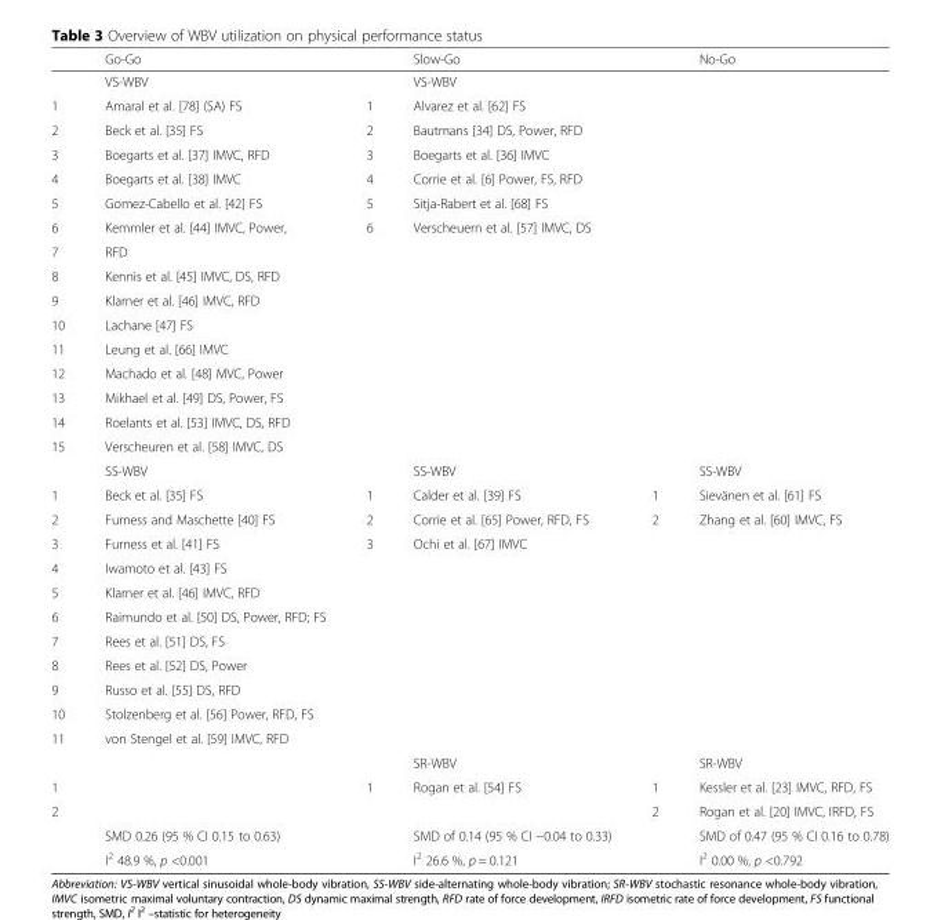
<table><thead><tr><td></td><td>Go-Go</td><td></td><td>Slow-Go</td><td></td><td>No-Go</td></tr></thead><tbody><tr><td></td><td>VS-WBV</td><td></td><td>VS-WBV</td><td></td><td></td></tr><tr><td>1</td><td>Amaral et al. [78] (SA) FS</td><td>1</td><td>Alvarez et al. [62] FS</td><td rowspan="15"></td><td rowspan="15"></td></tr><tr><td>2</td><td>Beck et al. [35] FS</td><td>2</td><td>Bautmans [34] DS, Power, RFD</td></tr><tr><td>3</td><td>Boegarts et al. [37] IMVC, RFD</td><td>3</td><td>Boegarts et al. [36] IMVC</td></tr><tr><td>4</td><td>Boegarts et al. [38] IMVC</td><td>4</td><td>Corrie et al. [6] Power, FS, RFD</td></tr><tr><td>5</td><td>Gomez-Cabello et al. [42] FS</td><td>5</td><td>Sitja-Rabert et al. [68] FS</td></tr><tr><td>6</td><td>Kemmler et al. [44] IMVC, Power,</td><td rowspan="6">6</td><td rowspan="10">Verscheuern et al. [57] IMVC, DS</td></tr><tr><td>7</td><td>RFD</td></tr><tr><td>8</td><td>Kennis et al. [45] IMVC, DS, RFD</td></tr><tr><td>9</td><td>Klarner et al. [46] IMVC, RFD</td></tr><tr><td>10</td><td>Lachane [47] FS</td></tr><tr><td>11</td><td>Leung et al. [66] IMVC</td></tr><tr><td>12</td><td>Machado et al. [48] MVC, Power</td><td rowspan="4"></td></tr><tr><td>13</td><td>Mikhael et al. [49] DS, Power, FS</td></tr><tr><td>14</td><td>Roelants et al. [53] IMVC, DS, RFD</td></tr><tr><td rowspan="2">15</td><td>Verscheuren et al. [58] IMVC, DS</td></tr><tr><td>SS-WBV</td><td></td><td>SS-WBV</td><td></td><td>SS-WBV</td></tr><tr><td>1</td><td>Beck et al. [35] FS</td><td>1</td><td>Calder et al. [39] FS</td><td>1</td><td>Sievänen et al. [61] FS</td></tr><tr><td>2</td><td>Furness and Maschette [40] FS</td><td>2</td><td>Corrie et al. [65] Power, RFD, FS</td><td rowspan="10">2</td><td rowspan="10">Zhang et al. [60] IMVC, FS</td></tr><tr><td>3</td><td>Furness et al. [41] FS</td><td rowspan="9">3</td><td rowspan="9">Ochi et al. [67] IMVC</td></tr><tr><td>4</td><td>Iwamoto et al. [43] FS</td></tr><tr><td>5</td><td>Klarner et al. [46] IMVC, RFD</td></tr><tr><td>6</td><td>Raimundo et al. [50] DS, Power, RFD; FS</td></tr><tr><td>7</td><td>Rees et al. [51] DS, FS</td></tr><tr><td>8</td><td>Rees et al. [52] DS, Power</td></tr><tr><td>9</td><td>Russo et al. [55] DS, RFD</td></tr><tr><td>10</td><td>Stolzenberg et al. [56] Power, RFD, FS</td></tr><tr><td rowspan="2">11</td><td>von Stengel et al. [59] IMVC, RFD</td></tr><tr><td></td><td></td><td>SR-WBV</td><td></td><td>SR-WBV</td></tr><tr><td>1</td><td rowspan="2"></td><td rowspan="2">1</td><td rowspan="2">Rogan et al. [54] FS</td><td>1</td><td>Kessler et al. [23] IMVC, RFD, FS</td></tr><tr><td rowspan="3">2</td><td>2</td><td>Rogan et al. [20] IMVC, IRFD, FS</td></tr><tr><td>SMD 0.26 (95 % CI 0.15 to 0.63)</td><td rowspan="2"></td><td>SMD of 0.14 (95 % CI −0.04 to 0.33)</td><td rowspan="2"></td><td>SMD of 0.47 (95 % CI 0.16 to 0.78)</td></tr><tr><td>I<sup>2</sup> 48.9 %, p &lt;0.001</td><td>I<sup>2</sup> 26.6 %, p = 0.121</td><td>I<sup>2</sup> 0.00 %, p &lt;0.792</td></tr></tbody></table>